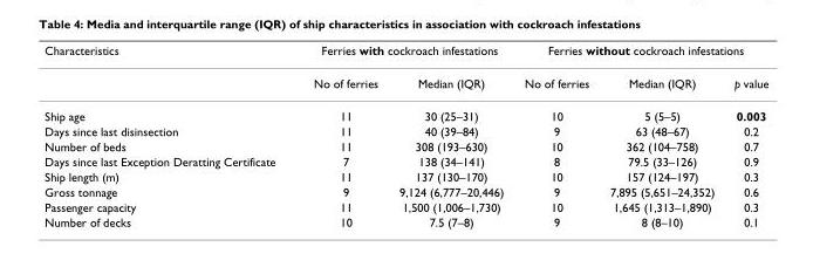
<table><thead><tr><td rowspan="2">Characteristics</td><td colspan="2">Ferries with cockroach infestations</td><td colspan="3">Ferries without cockroach infestations</td></tr><tr><td>No of ferries</td><td>Median (IQR)</td><td>No of ferries</td><td>Median (IQR)</td><td>p value</td></tr></thead><tbody><tr><td>Ship age</td><td>11</td><td>30 (25–31)</td><td>10</td><td>5 (5–5)</td><td>0.003</td></tr><tr><td>Days since last disinsection</td><td>11</td><td>40 (39–84)</td><td>9</td><td>63 (48–67)</td><td>0.2</td></tr><tr><td>Number of beds</td><td>11</td><td>308 (193–630)</td><td>10</td><td>362 (104–758)</td><td>0.7</td></tr><tr><td>Days since last Exception Deratting Certificate</td><td>7</td><td>138 (34–141)</td><td>8</td><td>79.5 (33–126)</td><td>0.9</td></tr><tr><td>Ship length (m)</td><td>11</td><td>137 (130–170)</td><td>10</td><td>157 (124–197)</td><td>0.3</td></tr><tr><td>Gross tonnage</td><td>9</td><td>9,124 (6,777–20,446)</td><td>9</td><td>7,895 (5,651–24,352)</td><td>0.6</td></tr><tr><td>Passenger capacity</td><td>11</td><td>1,500 (1,006–1,730)</td><td>10</td><td>1,645 (1,313–1,890)</td><td>0.3</td></tr><tr><td>Number of decks</td><td>10</td><td>7.5 (7–8)</td><td>9</td><td>8 (8–10)</td><td>0.1</td></tr></tbody></table>